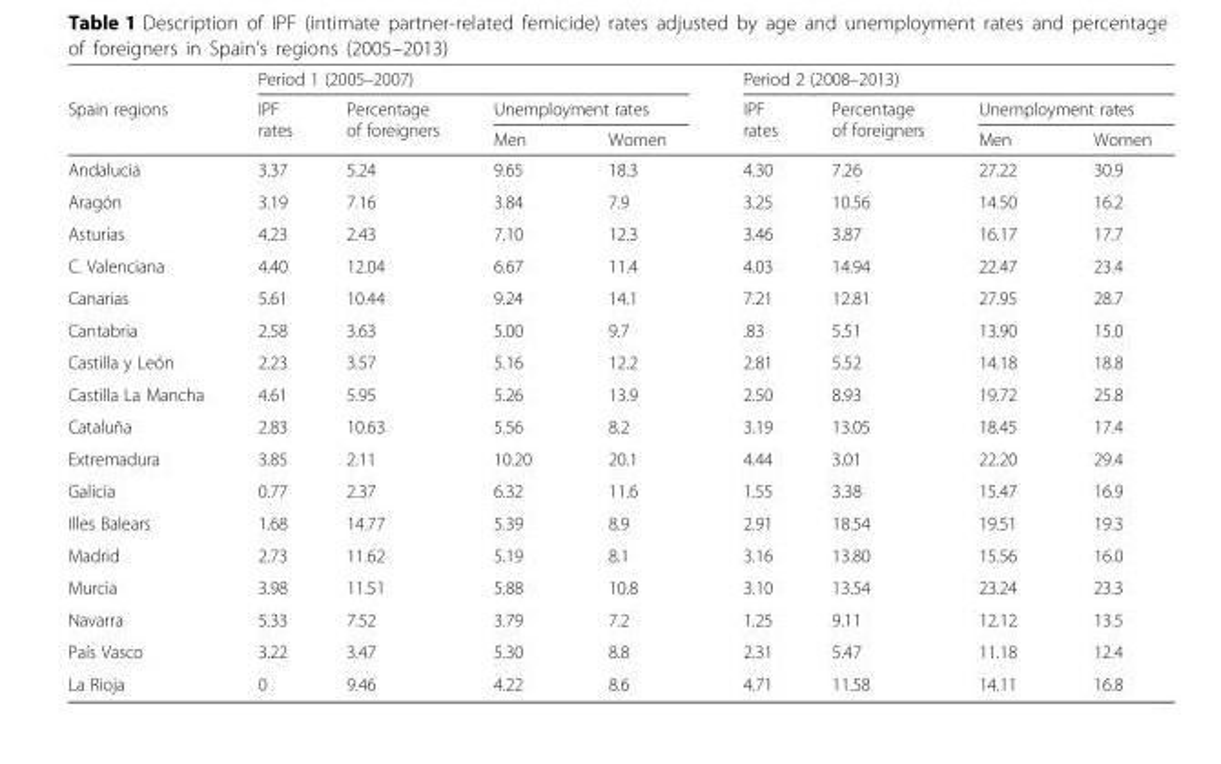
<table><thead><tr><td rowspan="3">Spain regions</td><td colspan="4">Period 1 (2005–2007)</td><td colspan="4">Period 2 (2008–2013)</td></tr><tr><td rowspan="2">IPF rates</td><td rowspan="2">Percentage of foreigners</td><td colspan="2">Unemployment rates</td><td rowspan="2">IPF rates</td><td rowspan="2">Percentage of foreigners</td><td colspan="2">Unemployment rates</td></tr><tr><td>Men</td><td>Women</td><td>Men</td><td>Women</td></tr></thead><tbody><tr><td>Andalucia</td><td>3.37</td><td>5.24</td><td>9.65</td><td>18.3</td><td>4.30</td><td>7.26</td><td>27.22</td><td>30.9</td></tr><tr><td>Aragón</td><td>3.19</td><td>7.16</td><td>3.84</td><td>7.9</td><td>3.25</td><td>10.56</td><td>14.50</td><td>16.2</td></tr><tr><td>Asturias</td><td>4.23</td><td>2.43</td><td>7.10</td><td>12.3</td><td>3.46</td><td>3.87</td><td>16.17</td><td>17.7</td></tr><tr><td>C. Valenciana</td><td>4.40</td><td>12.04</td><td>6.67</td><td>11.4</td><td>4.03</td><td>14.94</td><td>22.47</td><td>23.4</td></tr><tr><td>Canarias</td><td>5.61</td><td>10.44</td><td>9.24</td><td>14.1</td><td>7.21</td><td>12.81</td><td>27.95</td><td>28.7</td></tr><tr><td>Cantabria</td><td>2.58</td><td>3.63</td><td>5.00</td><td>9.7</td><td>.83</td><td>5.51</td><td>13.90</td><td>15.0</td></tr><tr><td>Castilla y León</td><td>2.23</td><td>3.57</td><td>5.16</td><td>12.2</td><td>2.81</td><td>5.52</td><td>14.18</td><td>18.8</td></tr><tr><td>Castilla La Mancha</td><td>4.61</td><td>5.95</td><td>5.26</td><td>13.9</td><td>2.50</td><td>8.93</td><td>19.72</td><td>25.8</td></tr><tr><td>Cataluña</td><td>2.83</td><td>10.63</td><td>5.56</td><td>8.2</td><td>3.19</td><td>13.05</td><td>18.45</td><td>17.4</td></tr><tr><td>Extremadura</td><td>3.85</td><td>2.11</td><td>10.20</td><td>20.1</td><td>4.44</td><td>3.01</td><td>22.20</td><td>29.4</td></tr><tr><td>Galicia</td><td>0.77</td><td>2.37</td><td>6.32</td><td>11.6</td><td>1.55</td><td>3.38</td><td>15.47</td><td>16.9</td></tr><tr><td>Illes Balears</td><td>1.68</td><td>14.77</td><td>5.39</td><td>8.9</td><td>2.91</td><td>18.54</td><td>19.51</td><td>19.3</td></tr><tr><td>Madrid</td><td>2.73</td><td>11.62</td><td>5.19</td><td>8.1</td><td>3.16</td><td>13.80</td><td>15.56</td><td>16.0</td></tr><tr><td>Murcia</td><td>3.98</td><td>11.51</td><td>5.88</td><td>10.8</td><td>3.10</td><td>13.54</td><td>23.24</td><td>23.3</td></tr><tr><td>Navarra</td><td>5.33</td><td>7.52</td><td>3.79</td><td>7.2</td><td>1.25</td><td>9.11</td><td>12.12</td><td>13.5</td></tr><tr><td>País Vasco</td><td>3.22</td><td>3.47</td><td>5.30</td><td>8.8</td><td>2.31</td><td>5.47</td><td>11.18</td><td>12.4</td></tr><tr><td>La Rioja</td><td>0</td><td>9.46</td><td>4.22</td><td>8.6</td><td>4.71</td><td>11.58</td><td>14.11</td><td>16.8</td></tr></tbody></table>